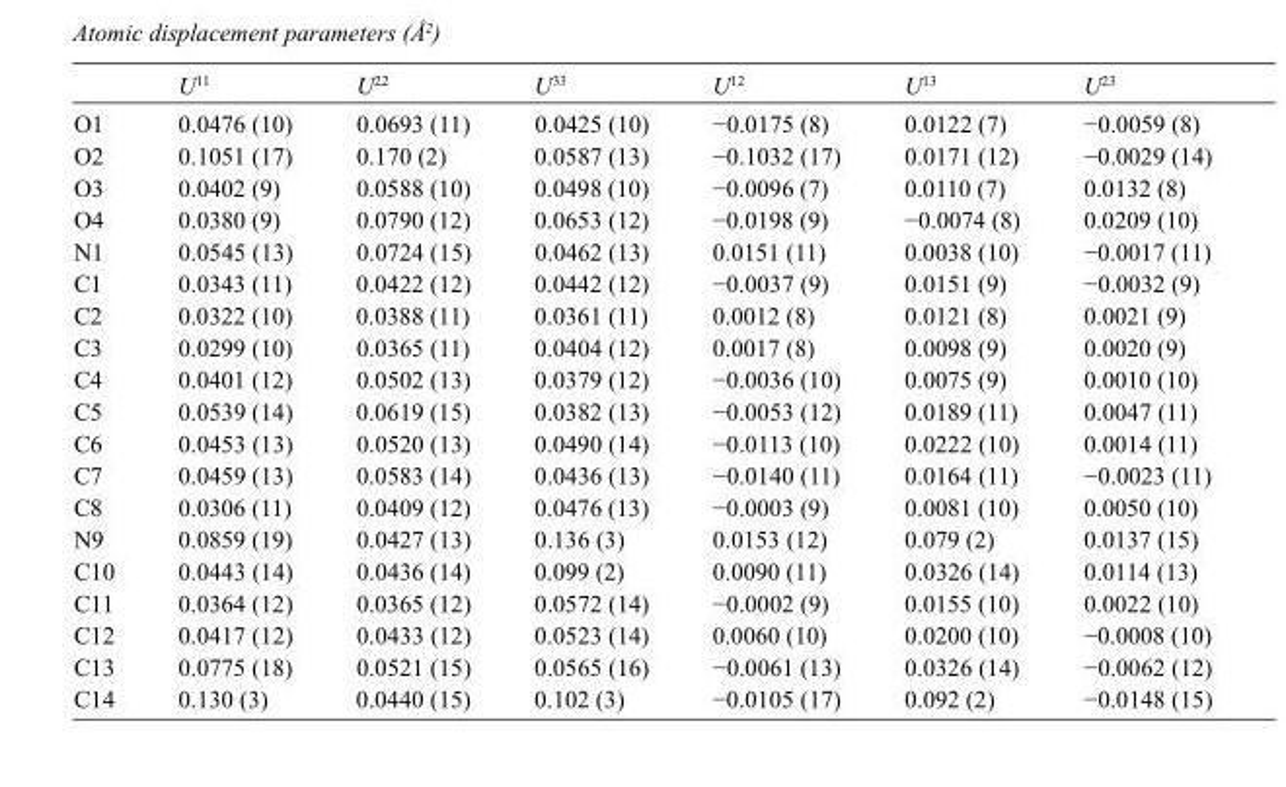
<table><thead><tr><td></td><td>U<sup>11</sup></td><td>U<sup>22</sup></td><td>U<sup>33</sup></td><td>U<sup>12</sup></td><td>U<sup>13</sup></td><td>U<sup>23</sup></td></tr></thead><tbody><tr><td>O1</td><td>0.0476 (10)</td><td>0.0693 (11)</td><td>0.0425 (10)</td><td>−0.0175 (8)</td><td>0.0122 (7)</td><td>−0.0059 (8)</td></tr><tr><td>O2</td><td>0.1051 (17)</td><td>0.170 (2)</td><td>0.0587 (13)</td><td>−0.1032 (17)</td><td>0.0171 (12)</td><td>−0.0029 (14)</td></tr><tr><td>O3</td><td>0.0402 (9)</td><td>0.0588 (10)</td><td>0.0498 (10)</td><td>−0.0096 (7)</td><td>0.0110 (7)</td><td>0.0132 (8)</td></tr><tr><td>O4</td><td>0.0380 (9)</td><td>0.0790 (12)</td><td>0.0653 (12)</td><td>−0.0198 (9)</td><td>−0.0074 (8)</td><td>0.0209 (10)</td></tr><tr><td>N1</td><td>0.0545 (13)</td><td>0.0724 (15)</td><td>0.0462 (13)</td><td>0.0151 (11)</td><td>0.0038 (10)</td><td>−0.0017 (11)</td></tr><tr><td>C1</td><td>0.0343 (11)</td><td>0.0422 (12)</td><td>0.0442 (12)</td><td>−0.0037 (9)</td><td>0.0151 (9)</td><td>−0.0032 (9)</td></tr><tr><td>C2</td><td>0.0322 (10)</td><td>0.0388 (11)</td><td>0.0361 (11)</td><td>0.0012 (8)</td><td>0.0121 (8)</td><td>0.0021 (9)</td></tr><tr><td>C3</td><td>0.0299 (10)</td><td>0.0365 (11)</td><td>0.0404 (12)</td><td>0.0017 (8)</td><td>0.0098 (9)</td><td>0.0020 (9)</td></tr><tr><td>C4</td><td>0.0401 (12)</td><td>0.0502 (13)</td><td>0.0379 (12)</td><td>−0.0036 (10)</td><td>0.0075 (9)</td><td>0.0010 (10)</td></tr><tr><td>C5</td><td>0.0539 (14)</td><td>0.0619 (15)</td><td>0.0382 (13)</td><td>−0.0053 (12)</td><td>0.0189 (11)</td><td>0.0047 (11)</td></tr><tr><td>C6</td><td>0.0453 (13)</td><td>0.0520 (13)</td><td>0.0490 (14)</td><td>−0.0113 (10)</td><td>0.0222 (10)</td><td>0.0014 (11)</td></tr><tr><td>C7</td><td>0.0459 (13)</td><td>0.0583 (14)</td><td>0.0436 (13)</td><td>−0.0140 (11)</td><td>0.0164 (11)</td><td>−0.0023 (11)</td></tr><tr><td>C8</td><td>0.0306 (11)</td><td>0.0409 (12)</td><td>0.0476 (13)</td><td>−0.0003 (9)</td><td>0.0081 (10)</td><td>0.0050 (10)</td></tr><tr><td>N9</td><td>0.0859 (19)</td><td>0.0427 (13)</td><td>0.136 (3)</td><td>0.0153 (12)</td><td>0.079 (2)</td><td>0.0137 (15)</td></tr><tr><td>C10</td><td>0.0443 (14)</td><td>0.0436 (14)</td><td>0.099 (2)</td><td>0.0090 (11)</td><td>0.0326 (14)</td><td>0.0114 (13)</td></tr><tr><td>C11</td><td>0.0364 (12)</td><td>0.0365 (12)</td><td>0.0572 (14)</td><td>−0.0002 (9)</td><td>0.0155 (10)</td><td>0.0022 (10)</td></tr><tr><td>C12</td><td>0.0417 (12)</td><td>0.0433 (12)</td><td>0.0523 (14)</td><td>0.0060 (10)</td><td>0.0200 (10)</td><td>−0.0008 (10)</td></tr><tr><td>C13</td><td>0.0775 (18)</td><td>0.0521 (15)</td><td>0.0565 (16)</td><td>−0.0061 (13)</td><td>0.0326 (14)</td><td>−0.0062 (12)</td></tr><tr><td>C14</td><td>0.130 (3)</td><td>0.0440 (15)</td><td>0.102 (3)</td><td>−0.0105 (17)</td><td>0.092 (2)</td><td>−0.0148 (15)</td></tr></tbody></table>